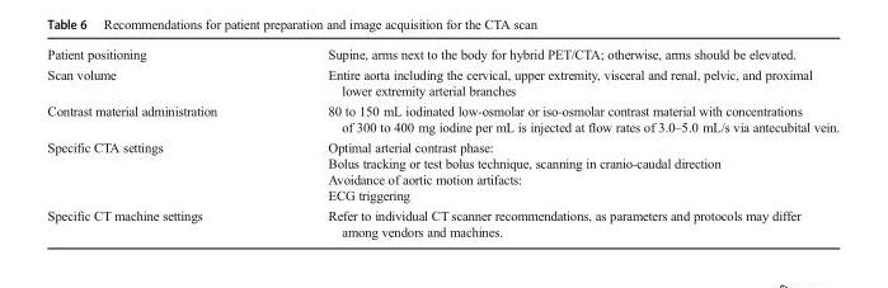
<table><tbody><tr><td>Patient positioning</td><td>Supine, arms next to the body for hybrid PET/CTA; otherwise, arms should be elevated.</td></tr><tr><td>Scan volume</td><td>Entire aorta including the cervical, upper extremity, visceral and renal, pelvic, and proximal lower extremity arterial branches</td></tr><tr><td>Contrast material administration</td><td>80 to 150 mL iodinated low-osmolar or iso-osmolar contrast material with concentrations of 300 to 400 mg iodine per mL is injected at flow rates of 3.0–5.0 mL/s via antecubital vein.</td></tr><tr><td>Specific CTA settings</td><td>Optimal arterial contrast phase: Bolus tracking or test bolus technique, scanning in cranio-caudal direction Avoidance of aortic motion artifacts: ECG triggering</td></tr><tr><td>Specific CT machine settings</td><td>Refer to individual CT scanner recommendations, as parameters and protocols may differ among vendors and machines.</td></tr></tbody></table>